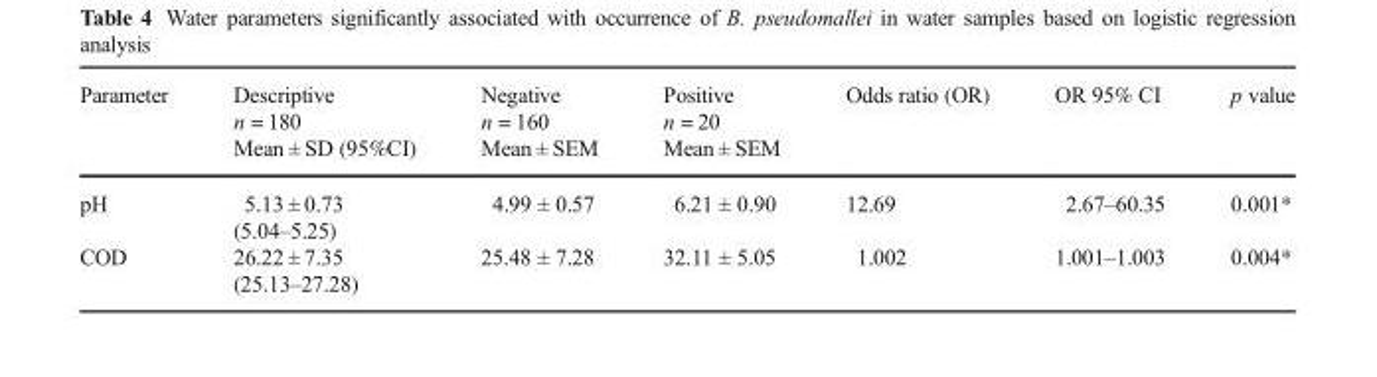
<table><thead><tr><td>Parameter</td><td>Descriptive n = 180 Mean ± SD (95%CI)</td><td>Negative n = 160 Mean ± SEM</td><td>Positive n = 20 Mean ± SEM</td><td>Odds ratio (OR)</td><td>OR 95% CI</td><td>p value</td></tr></thead><tbody><tr><td>pH</td><td>5.13 ± 0.73 (5.04–5.25)</td><td>4.99 ± 0.57</td><td>6.21 ± 0.90</td><td>12.69</td><td>2.67–60.35</td><td>0.001*</td></tr><tr><td>COD</td><td>26.22 ± 7.35 (25.13–27.28)</td><td>25.48 ± 7.28</td><td>32.11 ± 5.05</td><td>1.002</td><td>1.001–1.003</td><td>0.004*</td></tr></tbody></table>